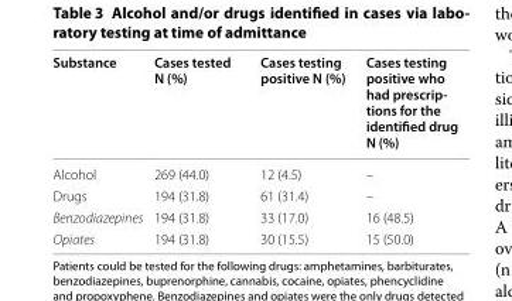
<table><thead><tr><td>Substance</td><td>Cases tested N (%)</td><td>Cases testing positive N (%)</td><td>Cases testing positive who had prescrip- tions for the identified drug N (%)</td></tr></thead><tbody><tr><td>Alcohol</td><td>269 (44.0)</td><td>12 (4.5)</td><td>–</td></tr><tr><td>Drugs</td><td>194 (31.8)</td><td>61 (31.4)</td><td>–</td></tr><tr><td>Benzodiazepines</td><td>194 (31.8)</td><td>33 (17.0)</td><td>16 (48.5)</td></tr><tr><td>Opiates</td><td>194 (31.8)</td><td>30 (15.5)</td><td>15 (50.0)</td></tr></tbody></table>